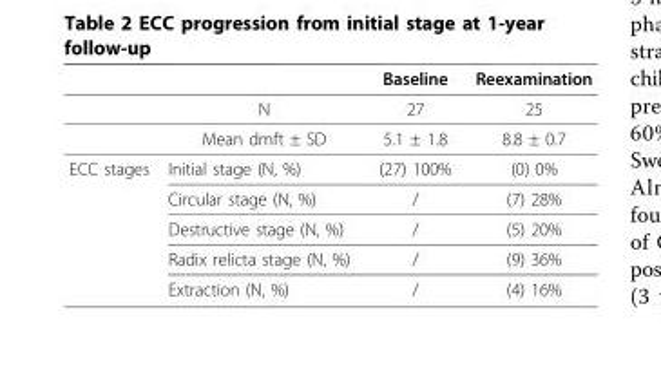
<table><thead><tr><td></td><td></td><td>Baseline</td><td>Reexamination</td></tr></thead><tbody><tr><td></td><td>N</td><td>27</td><td>25</td></tr><tr><td></td><td>Mean dmft ± SD</td><td>5.1 ± 1.8</td><td>8.8 ± 0.7</td></tr><tr><td rowspan="5">ECC stages</td><td>Initial stage (N, %)</td><td>(27) 100%</td><td>(0) 0%</td></tr><tr><td>Circular stage (N, %)</td><td>/</td><td>(7) 28%</td></tr><tr><td>Destructive stage (N, %)</td><td>/</td><td>(5) 20%</td></tr><tr><td>Radix relicta stage (N, %)</td><td>/</td><td>(9) 36%</td></tr><tr><td>Extraction (N, %)</td><td>/</td><td>(4) 16%</td></tr></tbody></table>